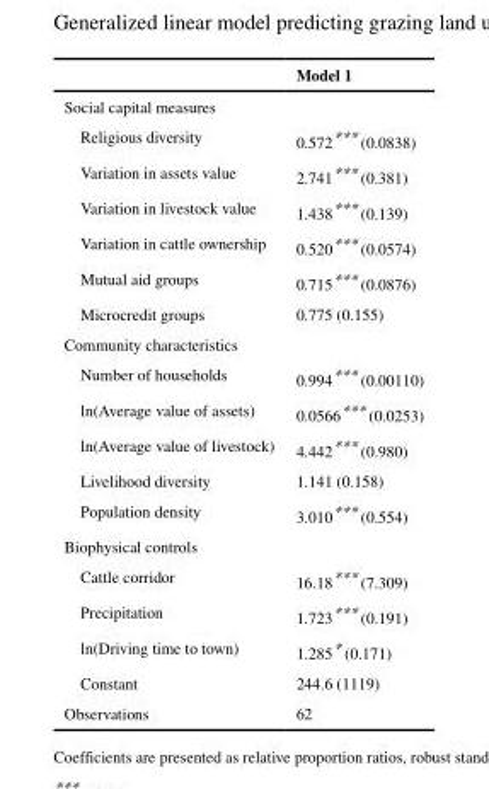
<table><thead><tr><td></td><td>Model 1</td></tr></thead><tbody><tr><td colspan="2">Social capital measures</td></tr><tr><td>Religious diversity</td><td>0.572*** (0.0838)</td></tr><tr><td>Variation in assets value</td><td>2.741*** (0.381)</td></tr><tr><td>Variation in livestock value</td><td>1.438*** (0.139)</td></tr><tr><td>Variation in cattle ownership</td><td>0.520*** (0.0574)</td></tr><tr><td>Mutual aid groups</td><td>0.715*** (0.0876)</td></tr><tr><td>Microcredit groups</td><td>0.775 (0.155)</td></tr><tr><td colspan="2">Community characteristics</td></tr><tr><td>Number of households</td><td>0.994*** (0.00110)</td></tr><tr><td>ln(Average value of assets)</td><td>0.0566*** (0.0253)</td></tr><tr><td>ln(Average value of livestock)</td><td>4.442*** (0.980)</td></tr><tr><td>Livelihood diversity</td><td>1.141 (0.158)</td></tr><tr><td>Population density</td><td>3.010*** (0.554)</td></tr><tr><td colspan="2">Biophysical controls</td></tr><tr><td>Cattle corridor</td><td>16.18*** (7.309)</td></tr><tr><td>Precipitation</td><td>1.723*** (0.191)</td></tr><tr><td>ln(Driving time to town)</td><td>1.285* (0.171)</td></tr><tr><td>Constant</td><td>244.6 (1119)</td></tr><tr><td>Observations</td><td>62</td></tr></tbody></table>